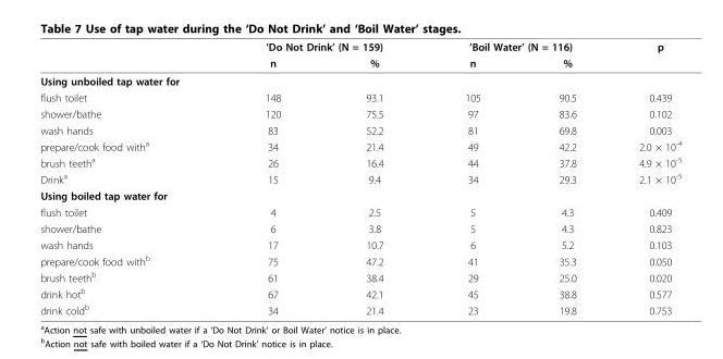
<table><thead><tr><td rowspan="2"></td><td colspan="2">’Do Not Drink’ (N = 159)</td><td colspan="2">’Boil Water’ (N = 116)</td><td rowspan="2">p</td></tr><tr><td>n</td><td>%</td><td>n</td><td>%</td></tr></thead><tbody><tr><td colspan="6">Using unboiled tap water for</td></tr><tr><td>flush toilet</td><td>148</td><td>93.1</td><td>105</td><td>90.5</td><td>0.439</td></tr><tr><td>shower/bathe</td><td>120</td><td>75.5</td><td>97</td><td>83.6</td><td>0.102</td></tr><tr><td>wash hands</td><td>83</td><td>52.2</td><td>81</td><td>69.8</td><td>0.003</td></tr><tr><td>prepare/cook food with<sup>a</sup></td><td>34</td><td>21.4</td><td>49</td><td>42.2</td><td>2.0 × 10<sup>-4</sup></td></tr><tr><td>brush teeth<sup>a</sup></td><td>26</td><td>16.4</td><td>44</td><td>37.8</td><td>4.9 × 10<sup>-5</sup></td></tr><tr><td>Drink<sup>a</sup></td><td>15</td><td>9.4</td><td>34</td><td>29.3</td><td>2.1 × 10<sup>-5</sup></td></tr><tr><td colspan="6">Using boiled tap water for</td></tr><tr><td>flush toilet</td><td>4</td><td>2.5</td><td>5</td><td>4.3</td><td>0.409</td></tr><tr><td>shower/bathe</td><td>6</td><td>3.8</td><td>5</td><td>4.3</td><td>0.823</td></tr><tr><td>wash hands</td><td>17</td><td>10.7</td><td>6</td><td>5.2</td><td>0.103</td></tr><tr><td>prepare/cook food with<sup>b</sup></td><td>75</td><td>47.2</td><td>41</td><td>35.3</td><td>0.050</td></tr><tr><td>brush teeth<sup>b</sup></td><td>61</td><td>38.4</td><td>29</td><td>25.0</td><td>0.020</td></tr><tr><td>drink hot<sup>b</sup></td><td>67</td><td>42.1</td><td>45</td><td>38.8</td><td>0.577</td></tr><tr><td>drink cold<sup>b</sup></td><td>34</td><td>21.4</td><td>23</td><td>19.8</td><td>0.753</td></tr></tbody></table>